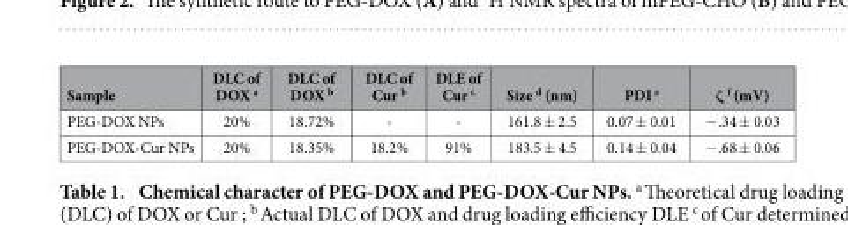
<table><thead><tr><td>Sample</td><td>DLC of DOX <sup>a</sup></td><td>DLC of DOX <sup>b</sup></td><td>DLC of Cur <sup>b</sup></td><td>DLE of Cur <sup>c</sup></td><td>Size <sup>d</sup> (nm)</td><td>PDI <sup>e</sup></td><td>ζ <sup>f</sup> (mV)</td></tr></thead><tbody><tr><td>PEG-DOX NPs</td><td>20%</td><td>18.72%</td><td>-</td><td>-</td><td>161.8 ± 2.5</td><td>0.07 ± 0.01</td><td>− .34 ± 0.03</td></tr><tr><td>PEG-DOX-Cur NPs</td><td>20%</td><td>18.35%</td><td>18.2%</td><td>91%</td><td>183.5 ± 4.5</td><td>0.14 ± 0.04</td><td>− .68 ± 0.06</td></tr></tbody></table>